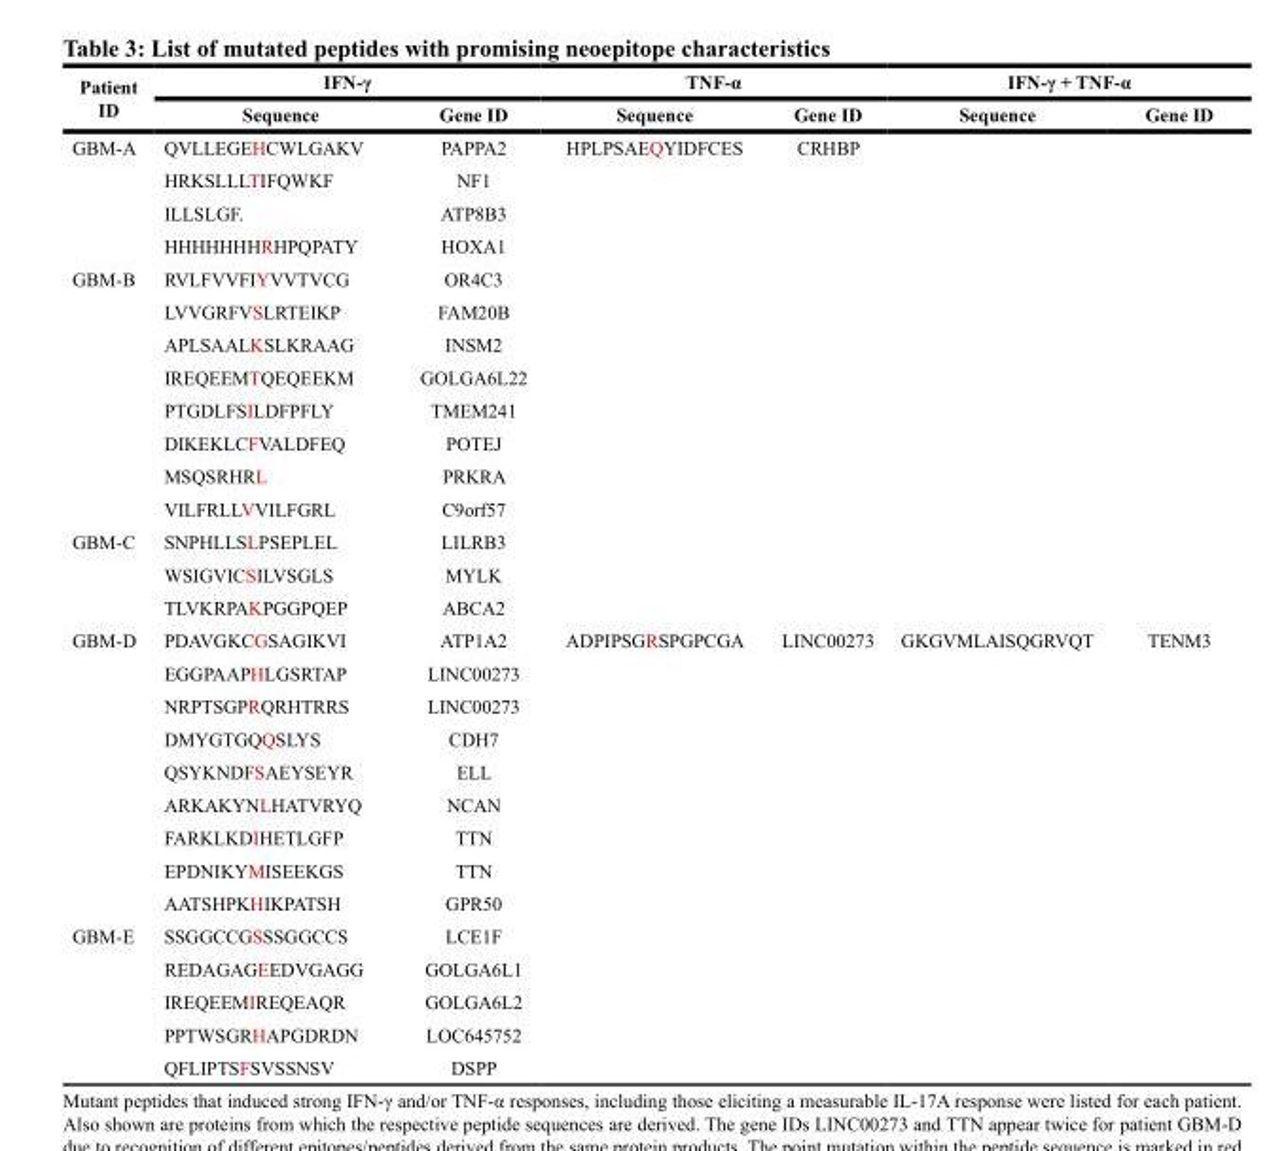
<table><thead><tr><td rowspan="2">Patient ID</td><td colspan="2">IFN-γ</td><td colspan="2">TNF-α</td><td colspan="2">IFN-γ + TNF-α</td></tr><tr><td>Sequence</td><td>Gene ID</td><td>Sequence</td><td>Gene ID</td><td>Sequence</td><td>Gene ID</td></tr></thead><tbody><tr><td rowspan="4">GBM-A</td><td>QVLLEGEHCWLGAKV</td><td>PAPPA2</td><td>HPLPSAEQYIDFCES</td><td>CRHBP</td><td></td><td></td></tr><tr><td>HRKSLLLTIFQWKF</td><td>NF1</td><td></td><td></td><td></td><td></td></tr><tr><td>ILLSLGF.</td><td>ATP8B3</td><td></td><td></td><td></td><td></td></tr><tr><td>HHHHHHHRHPQPATY</td><td>HOXA1</td><td></td><td></td><td></td><td></td></tr><tr><td rowspan="8">GBM-B</td><td>RVLFVVFIYVVTVCG</td><td>OR4C3</td><td></td><td></td><td></td><td></td></tr><tr><td>LVVGRFVSLRTEIKP</td><td>FAM20B</td><td></td><td></td><td></td><td></td></tr><tr><td>APLSAALKSLKRAAG</td><td>INSM2</td><td></td><td></td><td></td><td></td></tr><tr><td>IREQEEMTQEQEEKM</td><td>GOLGA6L22</td><td></td><td></td><td></td><td></td></tr><tr><td>PTGDLFSILDFPFLY</td><td>TMEM241</td><td></td><td></td><td></td><td></td></tr><tr><td>DIKEKLCFVALDFEQ</td><td>POTEJ</td><td></td><td></td><td></td><td></td></tr><tr><td>MSQSRHRL</td><td>PRKRA</td><td></td><td></td><td></td><td></td></tr><tr><td>VILFRLLVVILFGRL</td><td>C9orf57</td><td></td><td></td><td></td><td></td></tr><tr><td rowspan="3">GBM-C</td><td>SNPHLLSLPSEPLEL</td><td>LILRB3</td><td></td><td></td><td></td><td></td></tr><tr><td>WSIGVICSILVSGLS</td><td>MYLK</td><td></td><td></td><td></td><td></td></tr><tr><td>TLVKRPAKPGGPQEP</td><td>ABCA2</td><td></td><td></td><td></td><td></td></tr><tr><td rowspan="9">GBM-D</td><td>PDAVGKCGSAGIKVI</td><td>ATP1A2</td><td>ADPIPSGRSPGPCGA</td><td>LINC00273</td><td>GKGVMLAISQGRVQT</td><td>TENM3</td></tr><tr><td>EGGPAAPHLGSRTAP</td><td>LINC00273</td><td></td><td></td><td></td><td></td></tr><tr><td>NRPTSGPRQRHTRRS</td><td>LINC00273</td><td></td><td></td><td></td><td></td></tr><tr><td>DMYGTGQQSLYS</td><td>CDH7</td><td></td><td></td><td></td><td></td></tr><tr><td>QSYKNDFSAEYSEYR</td><td>ELL</td><td></td><td></td><td></td><td></td></tr><tr><td>ARKAKYNLHATVRYQ</td><td>NCAN</td><td></td><td></td><td></td><td></td></tr><tr><td>FARKLKDIHETLGFP</td><td>TTN</td><td></td><td></td><td></td><td></td></tr><tr><td>EPDNIKYMISEEKGS</td><td>TTN</td><td></td><td></td><td></td><td></td></tr><tr><td>AATSHPKHIKPATSH</td><td>GPR50</td><td></td><td></td><td></td><td></td></tr><tr><td rowspan="5">GBM-E</td><td>SSGGCCGSSSGGCCS</td><td>LCE1F</td><td></td><td></td><td></td><td></td></tr><tr><td>REDAGAGEEDVGAGG</td><td>GOLGA6L1</td><td></td><td></td><td></td><td></td></tr><tr><td>IREQEEMIREQEAQR</td><td>GOLGA6L2</td><td></td><td></td><td></td><td></td></tr><tr><td>PPTWSGRHAPGDRDN</td><td>LOC645752</td><td></td><td></td><td></td><td></td></tr><tr><td>QFLIPTSFSVSSNSV</td><td>DSPP</td><td></td><td></td><td></td><td></td></tr></tbody></table>